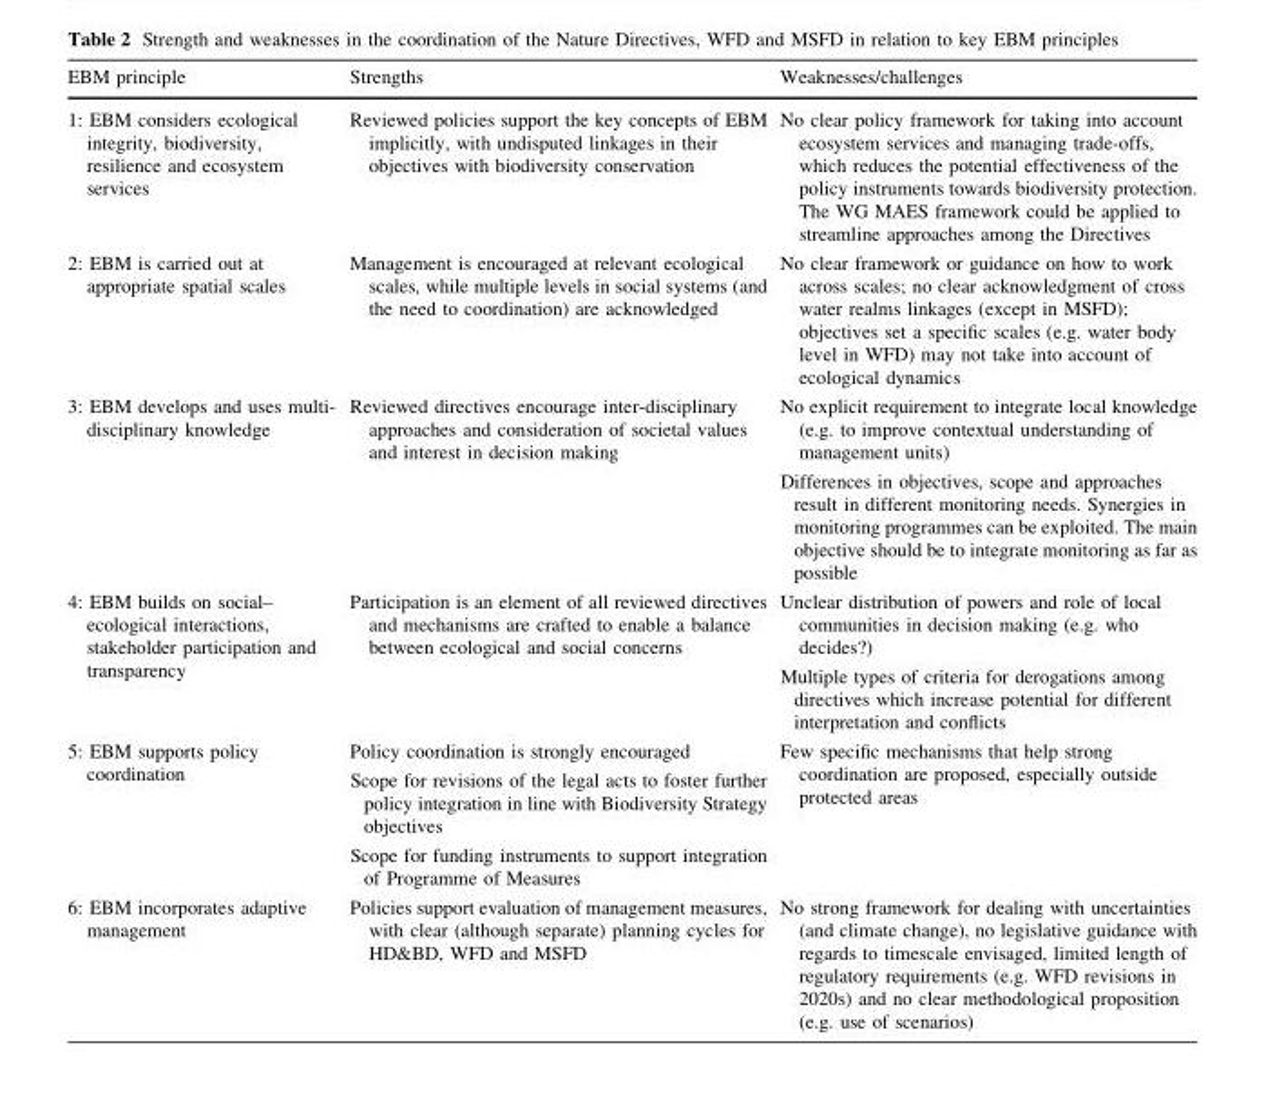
<table><thead><tr><td>EBM principle</td><td>Strengths</td><td>Weaknesses/challenges</td></tr></thead><tbody><tr><td>1: EBM considers ecological integrity, biodiversity, resilience and ecosystem services</td><td>Reviewed policies support the key concepts of EBM implicitly, with undisputed linkages in their objectives with biodiversity conservation</td><td>No clear policy framework for taking into account ecosystem services and managing trade-offs, which reduces the potential effectiveness of the policy instruments towards biodiversity protection. The WG MAES framework could be applied to streamline approaches among the Directives</td></tr><tr><td>2: EBM is carried out at appropriate spatial scales</td><td>Management is encouraged at relevant ecological scales, while multiple levels in social systems (and the need to coordination) are acknowledged</td><td>No clear framework or guidance on how to work across scales; no clear acknowledgment of cross water realms linkages (except in MSFD); objectives set a specific scales (e.g. water body level in WFD) may not take into account of ecological dynamics</td></tr><tr><td>3: EBM develops and uses multi- disciplinary knowledge</td><td>Reviewed directives encourage inter-disciplinary approaches and consideration of societal values and interest in decision making</td><td>No explicit requirement to integrate local knowledge (e.g. to improve contextual understanding of management units) Differences in objectives, scope and approaches result in different monitoring needs. Synergies in monitoring programmes can be exploited. The main objective should be to integrate monitoring as far as possible</td></tr><tr><td>4: EBM builds on social– ecological interactions, stakeholder participation and transparency</td><td>Participation is an element of all reviewed directives and mechanisms are crafted to enable a balance between ecological and social concerns</td><td>Unclear distribution of powers and role of local communities in decision making (e.g. who decides?) Multiple types of criteria for derogations among directives which increase potential for different interpretation and conflicts</td></tr><tr><td>5: EBM supports policy coordination</td><td>Policy coordination is strongly encouraged Scope for revisions of the legal acts to foster further policy integration in line with Biodiversity Strategy objectives Scope for funding instruments to support integration of Programme of Measures</td><td>Few specific mechanisms that help strong coordination are proposed, especially outside protected areas</td></tr><tr><td>6: EBM incorporates adaptive management</td><td>Policies support evaluation of management measures, with clear (although separate) planning cycles for HD&amp;BD, WFD and MSFD</td><td>No strong framework for dealing with uncertainties (and climate change), no legislative guidance with regards to timescale envisaged, limited length of regulatory requirements (e.g. WFD revisions in 2020s) and no clear methodological proposition (e.g. use of scenarios)</td></tr></tbody></table>